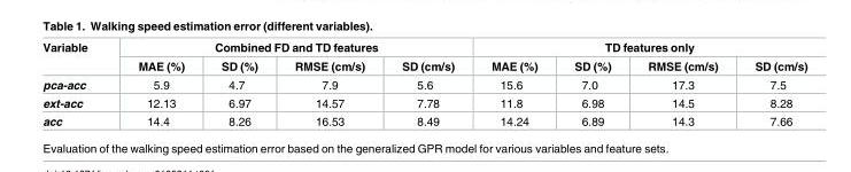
<table><thead><tr><td rowspan="2">Variable</td><td colspan="4">Combined FD and TD features</td><td colspan="4">TD features only</td></tr><tr><td>MAE (%)</td><td>SD (%)</td><td>RMSE (cm/s)</td><td>SD (cm/s)</td><td>MAE (%)</td><td>SD (%)</td><td>RMSE (cm/s)</td><td>SD (cm/s)</td></tr></thead><tbody><tr><td>pca-acc</td><td>5.9</td><td>4.7</td><td>7.9</td><td>5.6</td><td>15.6</td><td>7.0</td><td>17.3</td><td>7.5</td></tr><tr><td>ext-acc</td><td>12.13</td><td>6.97</td><td>14.57</td><td>7.78</td><td>11.8</td><td>6.98</td><td>14.5</td><td>8.28</td></tr><tr><td>acc</td><td>14.4</td><td>8.26</td><td>16.53</td><td>8.49</td><td>14.24</td><td>6.89</td><td>14.3</td><td>7.66</td></tr></tbody></table>